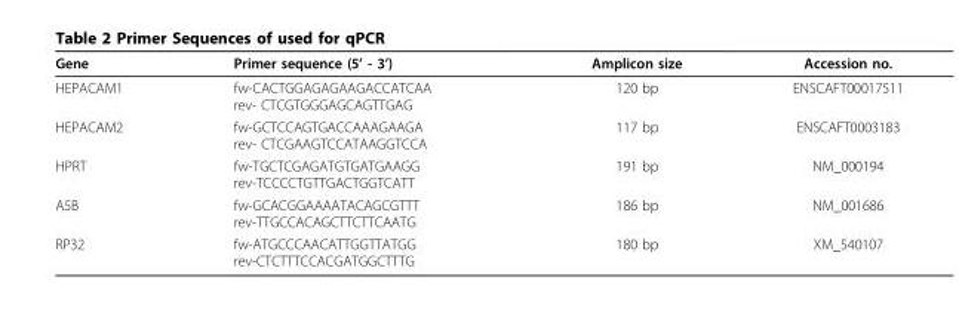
<table><thead><tr><td>Gene</td><td>Primer sequence (5’ - 3’)</td><td>Amplicon size</td><td>Accession no.</td></tr></thead><tbody><tr><td>HEPACAM1</td><td>fw-CACTGGAGAGAAGACCATCAA rev- CTCGTGGGAGCAGTTGAG</td><td>120 bp</td><td>ENSCAFT00017511</td></tr><tr><td>HEPACAM2</td><td>fw-GCTCCAGTGACCAAAGAAGA rev- CTCGAAGTCCATAAGGTCCA</td><td>117 bp</td><td>ENSCAFT0003183</td></tr><tr><td>HPRT</td><td>fw-TGCTCGAGATGTGATGAAGG rev-TCCCCTGTTGACTGGTCATT</td><td>191 bp</td><td>NM_000194</td></tr><tr><td>A5B</td><td>fw-GCACGGAAAATACAGCGTTT rev-TTGCCACAGCTTCTTCAATG</td><td>186 bp</td><td>NM_001686</td></tr><tr><td>RP32</td><td>fw-ATGCCCAACATTGGTTATGG rev-CTCTTTCCACGATGGCTTTG</td><td>180 bp</td><td>XM_540107</td></tr></tbody></table>